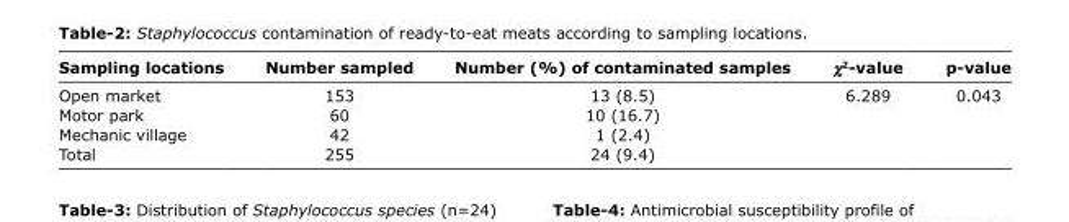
<table><thead><tr><td>Sampling locations</td><td>Number sampled</td><td>Number (%) of contaminated samples</td><td>χ<sup>2</sup>-value</td><td>p-value</td></tr></thead><tbody><tr><td>Open market</td><td>153</td><td>13 (8.5)</td><td>6.289</td><td>0.043</td></tr><tr><td>Motor park</td><td>60</td><td>10 (16.7)</td><td></td><td></td></tr><tr><td>Mechanic village</td><td>42</td><td>1 (2.4)</td><td></td><td></td></tr><tr><td>Total</td><td>255</td><td>24 (9.4)</td><td></td><td></td></tr></tbody></table>